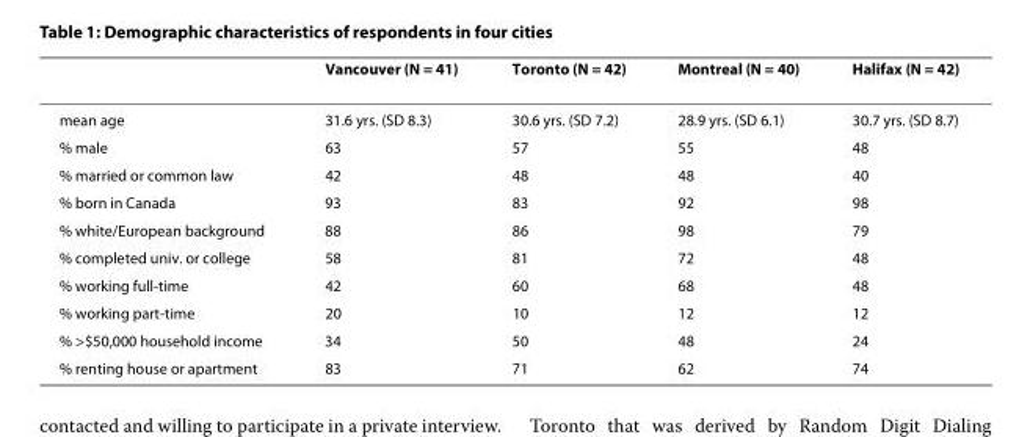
<table><thead><tr><td></td><td>Vancouver (N = 41)</td><td>Toronto (N = 42)</td><td>Montreal (N = 40)</td><td>Halifax (N = 42)</td></tr></thead><tbody><tr><td>mean age</td><td>31.6 yrs. (SD 8.3)</td><td>30.6 yrs. (SD 7.2)</td><td>28.9 yrs. (SD 6.1)</td><td>30.7 yrs. (SD 8.7)</td></tr><tr><td>% male</td><td>63</td><td>57</td><td>55</td><td>48</td></tr><tr><td>% married or common law</td><td>42</td><td>48</td><td>48</td><td>40</td></tr><tr><td>% born in Canada</td><td>93</td><td>83</td><td>92</td><td>98</td></tr><tr><td>% white/European background</td><td>88</td><td>86</td><td>98</td><td>79</td></tr><tr><td>% completed univ. or college</td><td>58</td><td>81</td><td>72</td><td>48</td></tr><tr><td>% working full-time</td><td>42</td><td>60</td><td>68</td><td>48</td></tr><tr><td>% working part-time</td><td>20</td><td>10</td><td>12</td><td>12</td></tr><tr><td>% &gt;$50,000 household income</td><td>34</td><td>50</td><td>48</td><td>24</td></tr><tr><td>% renting house or apartment</td><td>83</td><td>71</td><td>62</td><td>74</td></tr></tbody></table>